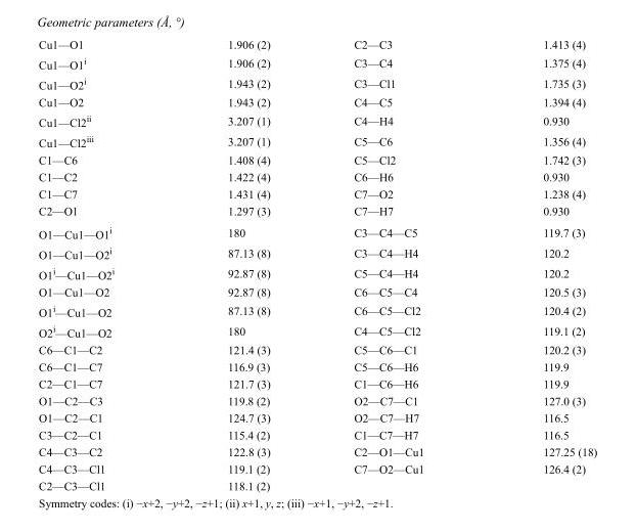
<table><tbody><tr><td>Cu1—O1</td><td>1.906 (2)</td><td>C2—C3</td><td>1.413 (4)</td></tr><tr><td>Cu1—O1<sup>i</sup></td><td>1.906 (2)</td><td>C3—C4</td><td>1.375 (4)</td></tr><tr><td>Cu1—O2<sup>i</sup></td><td>1.943 (2)</td><td>C3—Cl1</td><td>1.735 (3)</td></tr><tr><td>Cu1—O2</td><td>1.943 (2)</td><td>C4—C5</td><td>1.394 (4)</td></tr><tr><td>Cu1—Cl2<sup>ii</sup></td><td>3.207 (1)</td><td>C4—H4</td><td>0.930</td></tr><tr><td>Cu1—Cl2<sup>iii</sup></td><td>3.207 (1)</td><td>C5—C6</td><td>1.356 (4)</td></tr><tr><td>C1—C6</td><td>1.408 (4)</td><td>C5—Cl2</td><td>1.742 (3)</td></tr><tr><td>C1—C2</td><td>1.422 (4)</td><td>C6—H6</td><td>0.930</td></tr><tr><td>C1—C7</td><td>1.431 (4)</td><td>C7—O2</td><td>1.238 (4)</td></tr><tr><td>C2—O1</td><td>1.297 (3)</td><td>C7—H7</td><td>0.930</td></tr><tr><td>O1—Cu1—O1<sup>i</sup></td><td>180</td><td>C3—C4—C5</td><td>119.7 (3)</td></tr><tr><td>O1—Cu1—O2<sup>i</sup></td><td>87.13 (8)</td><td>C3—C4—H4</td><td>120.2</td></tr><tr><td>O1<sup>i</sup>—Cu1—O2<sup>i</sup></td><td>92.87 (8)</td><td>C5—C4—H4</td><td>120.2</td></tr><tr><td>O1—Cu1—O2</td><td>92.87 (8)</td><td>C6—C5—C4</td><td>120.5 (3)</td></tr><tr><td>O1<sup>i</sup>—Cu1—O2</td><td>87.13 (8)</td><td>C6—C5—Cl2</td><td>120.4 (2)</td></tr><tr><td>O2<sup>i</sup>—Cu1—O2</td><td>180</td><td>C4—C5—Cl2</td><td>119.1 (2)</td></tr><tr><td>C6—C1—C2</td><td>121.4 (3)</td><td>C5—C6—C1</td><td>120.2 (3)</td></tr><tr><td>C6—C1—C7</td><td>116.9 (3)</td><td>C5—C6—H6</td><td>119.9</td></tr><tr><td>C2—C1—C7</td><td>121.7 (3)</td><td>C1—C6—H6</td><td>119.9</td></tr><tr><td>O1—C2—C3</td><td>119.8 (2)</td><td>O2—C7—C1</td><td>127.0 (3)</td></tr><tr><td>O1—C2—C1</td><td>124.7 (3)</td><td>O2—C7—H7</td><td>116.5</td></tr><tr><td>C3—C2—C1</td><td>115.4 (2)</td><td>C1—C7—H7</td><td>116.5</td></tr><tr><td>C4—C3—C2</td><td>122.8 (3)</td><td>C2—O1—Cu1</td><td>127.25 (18)</td></tr><tr><td>C4—C3—Cl1</td><td>119.1 (2)</td><td>C7—O2—Cu1</td><td>126.4 (2)</td></tr><tr><td>C2—C3—Cl1</td><td>118.1 (2)</td><td></td><td></td></tr></tbody></table>